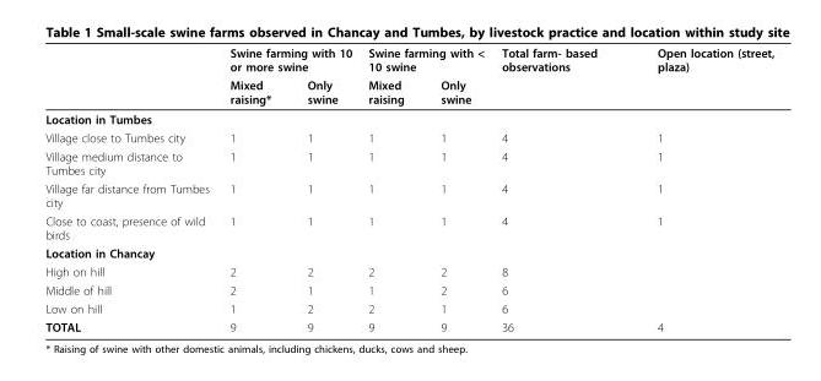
<table><thead><tr><td rowspan="2"></td><td colspan="2">Swine farming with 10 or more swine</td><td colspan="2">Swine farming with &lt; 10 swine</td><td rowspan="2">Total farm- based observations</td><td rowspan="2">Open location (street, plaza)</td></tr><tr><td>Mixed raising*</td><td>Only swine</td><td>Mixed raising</td><td>Only swine</td></tr></thead><tbody><tr><td colspan="7">Location in Tumbes</td></tr><tr><td>Village close to Tumbes city</td><td>1</td><td>1</td><td>1</td><td>1</td><td>4</td><td>1</td></tr><tr><td>Village medium distance to Tumbes city</td><td>1</td><td>1</td><td>1</td><td>1</td><td>4</td><td>1</td></tr><tr><td>Village far distance from Tumbes city</td><td>1</td><td>1</td><td>1</td><td>1</td><td>4</td><td>1</td></tr><tr><td>Close to coast, presence of wild birds</td><td>1</td><td>1</td><td>1</td><td>1</td><td>4</td><td>1</td></tr><tr><td colspan="7">Location in Chancay</td></tr><tr><td>High on hill</td><td>2</td><td>2</td><td>2</td><td>2</td><td>8</td><td></td></tr><tr><td>Middle of hill</td><td>2</td><td>1</td><td>1</td><td>2</td><td>6</td><td></td></tr><tr><td>Low on hill</td><td>1</td><td>2</td><td>2</td><td>1</td><td>6</td><td></td></tr><tr><td>TOTAL</td><td>9</td><td>9</td><td>9</td><td>9</td><td>36</td><td>4</td></tr></tbody></table>